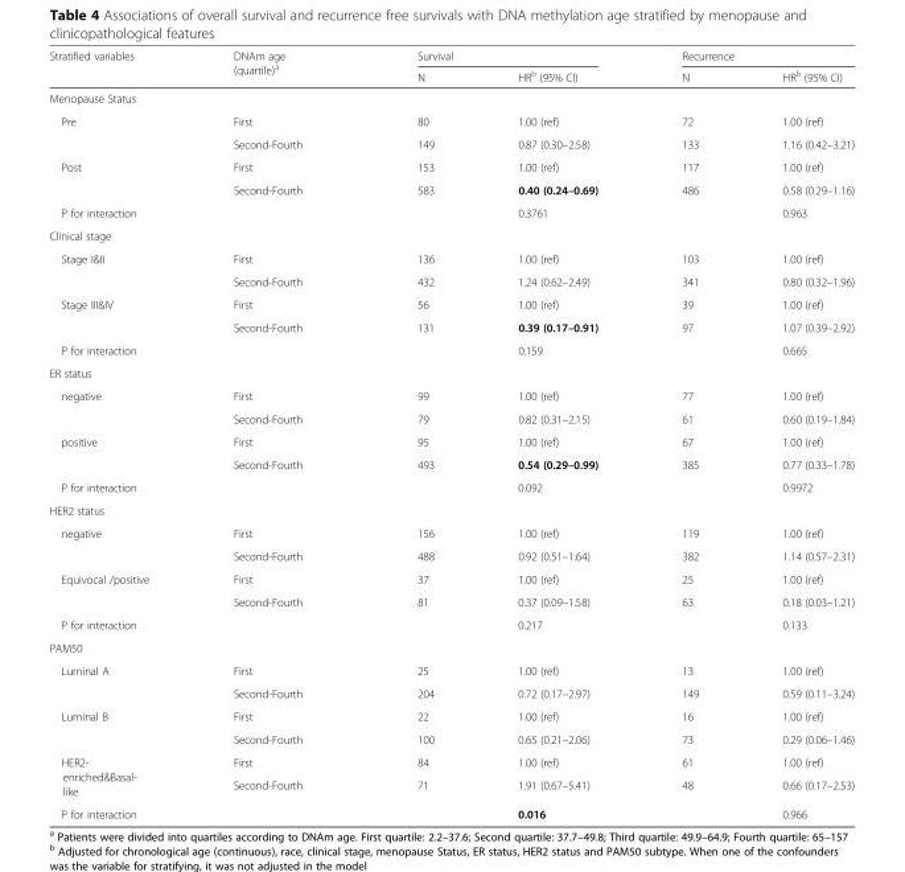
<table><thead><tr><td rowspan="2">Stratified variables</td><td rowspan="2">DNAm age (quartile)<sup>a</sup></td><td colspan="2">Survival</td><td colspan="2">Recurrence</td></tr><tr><td>N</td><td>HR<sup>b</sup> (95% CI)</td><td>N</td><td>HR<sup>b</sup> (95% CI)</td></tr></thead><tbody><tr><td colspan="6">Menopause Status</td></tr><tr><td rowspan="2">Pre</td><td>First</td><td>80</td><td>1.00 (ref)</td><td>72</td><td>1.00 (ref)</td></tr><tr><td>Second-Fourth</td><td>149</td><td>0.87 (0.30–2.58)</td><td>133</td><td>1.16 (0.42–3.21)</td></tr><tr><td rowspan="2">Post</td><td>First</td><td>153</td><td>1.00 (ref)</td><td>117</td><td>1.00 (ref)</td></tr><tr><td>Second-Fourth</td><td>583</td><td>0.40 (0.24–0.69)</td><td>486</td><td>0.58 (0.29–1.16)</td></tr><tr><td colspan="3">P for interaction</td><td>0.3761</td><td></td><td>0.963</td></tr><tr><td colspan="6">Clinical stage</td></tr><tr><td rowspan="2">Stage I&amp;II</td><td>First</td><td>136</td><td>1.00 (ref)</td><td>103</td><td>1.00 (ref)</td></tr><tr><td>Second-Fourth</td><td>432</td><td>1.24 (0.62–2.49)</td><td>341</td><td>0.80 (0.32–1.96)</td></tr><tr><td rowspan="2">Stage III&amp;IV</td><td>First</td><td>56</td><td>1.00 (ref)</td><td>39</td><td>1.00 (ref)</td></tr><tr><td>Second-Fourth</td><td>131</td><td>0.39 (0.17–0.91)</td><td>97</td><td>1.07 (0.39–2.92)</td></tr><tr><td colspan="3">P for interaction</td><td>0.159</td><td></td><td>0.665</td></tr><tr><td colspan="6">ER status</td></tr><tr><td rowspan="2">negative</td><td>First</td><td>99</td><td>1.00 (ref)</td><td>77</td><td>1.00 (ref)</td></tr><tr><td>Second-Fourth</td><td>79</td><td>0.82 (0.31–2.15)</td><td>61</td><td>0.60 (0.19–1.84)</td></tr><tr><td rowspan="2">positive</td><td>First</td><td>95</td><td>1.00 (ref)</td><td>67</td><td>1.00 (ref)</td></tr><tr><td>Second-Fourth</td><td>493</td><td>0.54 (0.29–0.99)</td><td>385</td><td>0.77 (0.33–1.78)</td></tr><tr><td colspan="3">P for interaction</td><td>0.092</td><td></td><td>0.9972</td></tr><tr><td colspan="6">HER2 status</td></tr><tr><td rowspan="2">negative</td><td>First</td><td>156</td><td>1.00 (ref)</td><td>119</td><td>1.00 (ref)</td></tr><tr><td>Second-Fourth</td><td>488</td><td>0.92 (0.51–1.64)</td><td>382</td><td>1.14 (0.57–2.31)</td></tr><tr><td rowspan="2">Equivocal /positive</td><td>First</td><td>37</td><td>1.00 (ref)</td><td>25</td><td>1.00 (ref)</td></tr><tr><td>Second-Fourth</td><td>81</td><td>0.37 (0.09–1.58)</td><td>63</td><td>0.18 (0.03–1.21)</td></tr><tr><td colspan="3">P for interaction</td><td>0.217</td><td></td><td>0.133</td></tr><tr><td colspan="6">PAM50</td></tr><tr><td rowspan="2">Luminal A</td><td>First</td><td>25</td><td>1.00 (ref)</td><td>13</td><td>1.00 (ref)</td></tr><tr><td>Second-Fourth</td><td>204</td><td>0.72 (0.17–2.97)</td><td>149</td><td>0.59 (0.11–3.24)</td></tr><tr><td rowspan="2">Luminal B</td><td>First</td><td>22</td><td>1.00 (ref)</td><td>16</td><td>1.00 (ref)</td></tr><tr><td>Second-Fourth</td><td>100</td><td>0.65 (0.21–2.06)</td><td>73</td><td>0.29 (0.06–1.46)</td></tr><tr><td rowspan="2">HER2- enriched&amp;Basal- like</td><td>First</td><td>84</td><td>1.00 (ref)</td><td>61</td><td>1.00 (ref)</td></tr><tr><td>Second-Fourth</td><td>71</td><td>1.91 (0.67–5.41)</td><td>48</td><td>0.66 (0.17–2.53)</td></tr><tr><td colspan="3">P for interaction</td><td>0.016</td><td></td><td>0.966</td></tr></tbody></table>